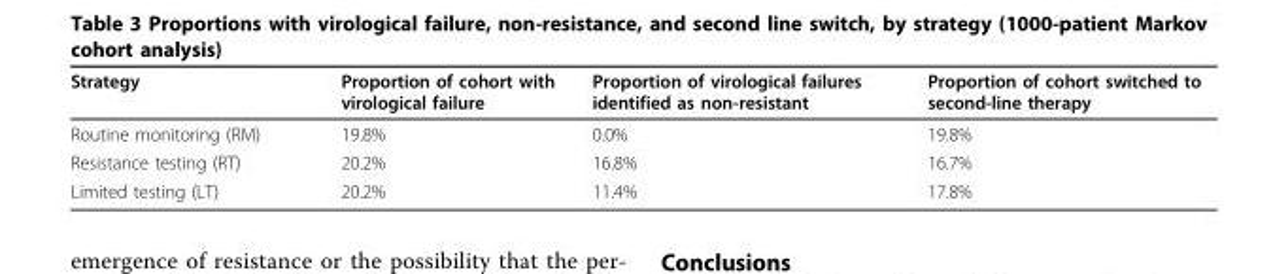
<table><thead><tr><td>Strategy</td><td>Proportion of cohort with virological failure</td><td>Proportion of virological failures identified as non-resistant</td><td>Proportion of cohort switched to second-line therapy</td></tr></thead><tbody><tr><td>Routine monitoring (RM)</td><td>19.8%</td><td>0.0%</td><td>19.8%</td></tr><tr><td>Resistance testing (RT)</td><td>20.2%</td><td>16.8%</td><td>16.7%</td></tr><tr><td>Limited testing (LT)</td><td>20.2%</td><td>11.4%</td><td>17.8%</td></tr></tbody></table>